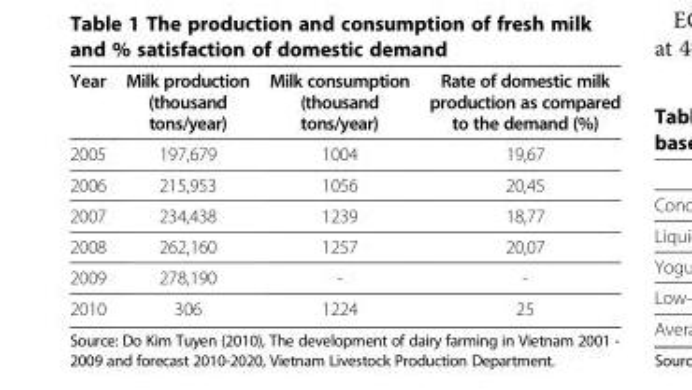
<table><thead><tr><td>Year</td><td>Milk production (thousand tons/year)</td><td>Milk consumption (thousand tons/year)</td><td>Rate of domestic milk production as compared to the demand (%)</td></tr></thead><tbody><tr><td>2005</td><td>197,679</td><td>1004</td><td>19,67</td></tr><tr><td>2006</td><td>215,953</td><td>1056</td><td>20,45</td></tr><tr><td>2007</td><td>234,438</td><td>1239</td><td>18,77</td></tr><tr><td>2008</td><td>262,160</td><td>1257</td><td>20,07</td></tr><tr><td>2009</td><td>278,190</td><td>-</td><td>-</td></tr><tr><td>2010</td><td>306</td><td>1224</td><td>25</td></tr></tbody></table>